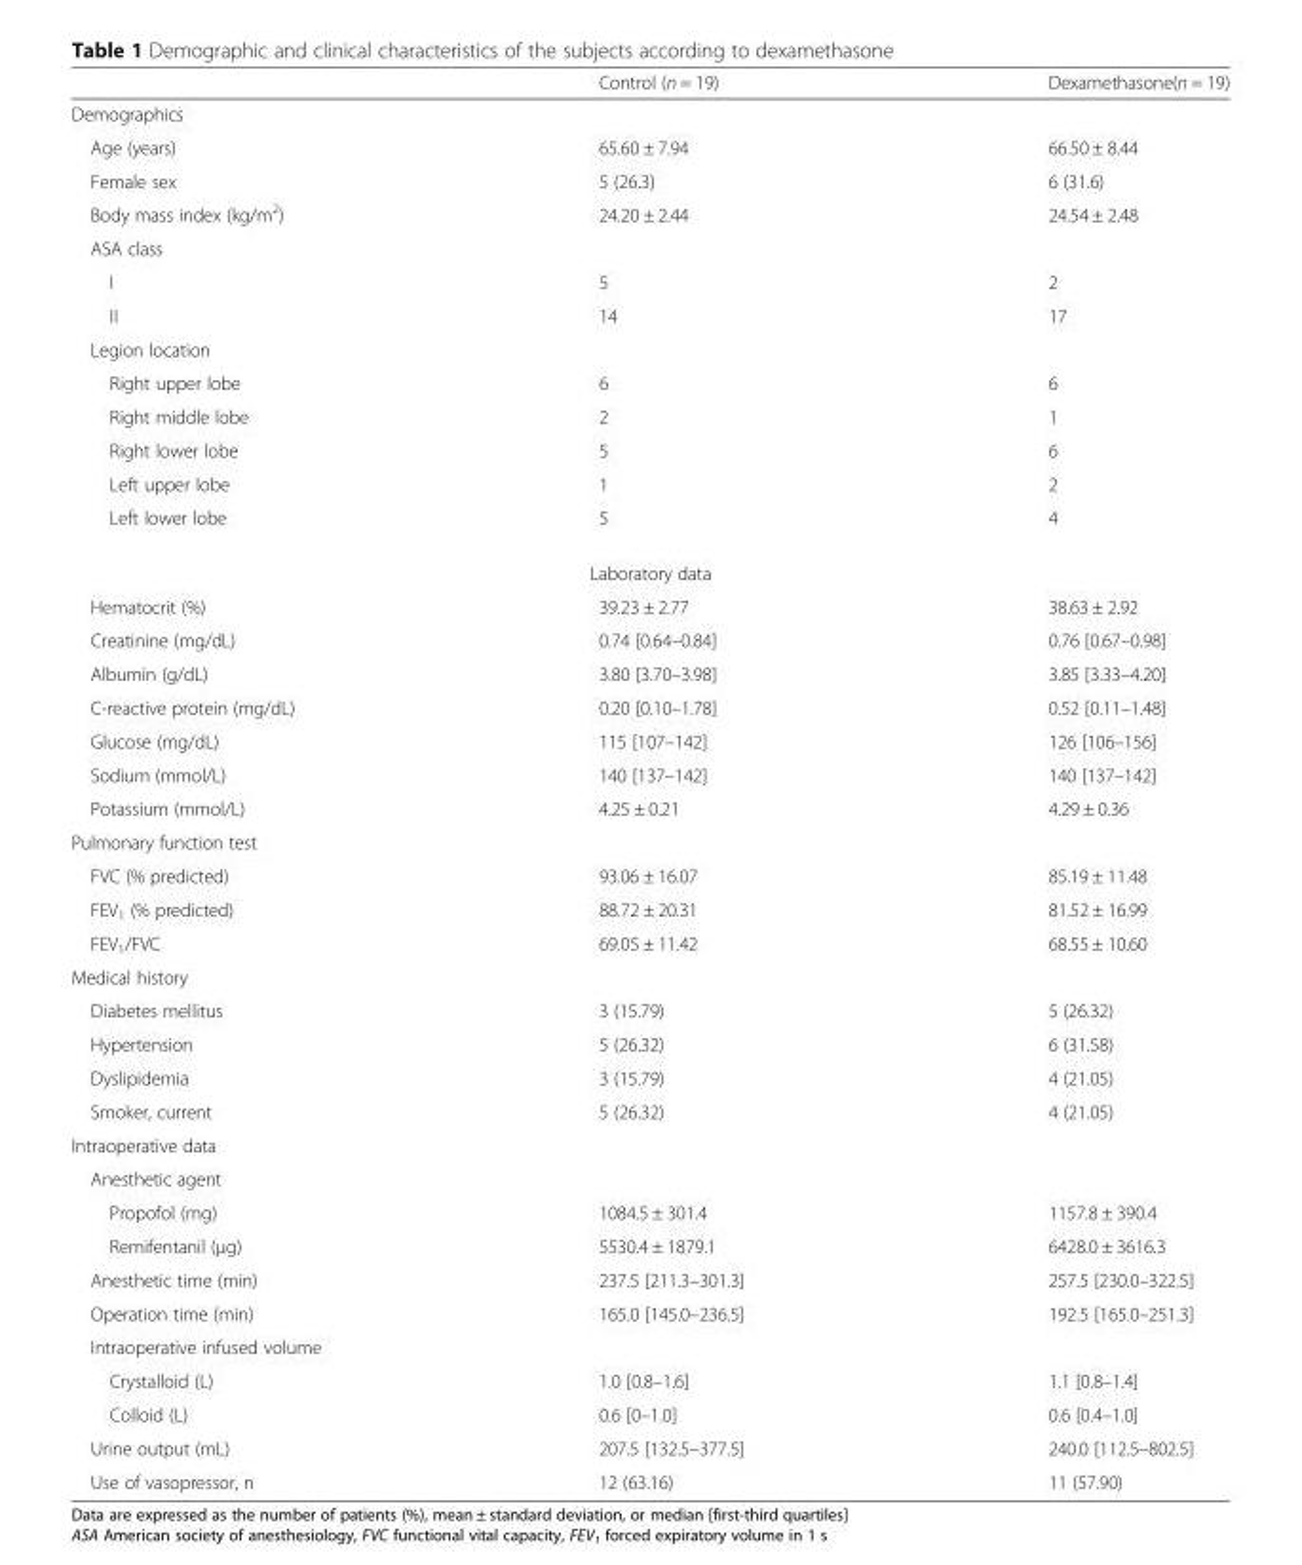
<table><thead><tr><td></td><td>Control (n = 19)</td><td>Dexamethasone(n = 19)</td></tr></thead><tbody><tr><td colspan="3">Demographics</td></tr><tr><td>Age (years)</td><td>65.60 ± 7.94</td><td>66.50 ± 8.44</td></tr><tr><td>Female sex</td><td>5 (26.3)</td><td>6 (31.6)</td></tr><tr><td>Body mass index (kg/m<sup>2</sup>)</td><td>24.20 ± 2.44</td><td>24.54 ± 2.48</td></tr><tr><td colspan="3">ASA class</td></tr><tr><td>I</td><td>5</td><td>2</td></tr><tr><td>II</td><td>14</td><td>17</td></tr><tr><td colspan="3">Legion location</td></tr><tr><td>Right upper lobe</td><td>6</td><td>6</td></tr><tr><td>Right middle lobe</td><td>2</td><td>1</td></tr><tr><td>Right lower lobe</td><td>5</td><td>6</td></tr><tr><td>Left upper lobe</td><td>1</td><td>2</td></tr><tr><td>Left lower lobe</td><td>5</td><td>4</td></tr><tr><td colspan="3">Laboratory data</td></tr><tr><td>Hematocrit (%)</td><td>39.23 ± 2.77</td><td>38.63 ± 2.92</td></tr><tr><td>Creatinine (mg/dL)</td><td>0.74 [0.64–0.84]</td><td>0.76 [0.67–0.98]</td></tr><tr><td>Albumin (g/dL)</td><td>3.80 [3.70–3.98]</td><td>3.85 [3.33–4.20]</td></tr><tr><td>C-reactive protein (mg/dL)</td><td>0.20 [0.10–1.78]</td><td>0.52 [0.11–1.48]</td></tr><tr><td>Glucose (mg/dL)</td><td>115 [107–142]</td><td>126 [106–156]</td></tr><tr><td>Sodium (mmol/L)</td><td>140 [137–142]</td><td>140 [137–142]</td></tr><tr><td>Potassium (mmol/L)</td><td>4.25 ± 0.21</td><td>4.29 ± 0.36</td></tr><tr><td colspan="3">Pulmonary function test</td></tr><tr><td>FVC (% predicted)</td><td>93.06 ± 16.07</td><td>85.19 ± 11.48</td></tr><tr><td>FEV<sub>1</sub> (% predicted)</td><td>88.72 ± 20.31</td><td>81.52 ± 16.99</td></tr><tr><td>FEV<sub>1</sub>/FVC</td><td>69.05 ± 11.42</td><td>68.55 ± 10.60</td></tr><tr><td colspan="3">Medical history</td></tr><tr><td>Diabetes mellitus</td><td>3 (15.79)</td><td>5 (26.32)</td></tr><tr><td>Hypertension</td><td>5 (26.32)</td><td>6 (31.58)</td></tr><tr><td>Dyslipidemia</td><td>3 (15.79)</td><td>4 (21.05)</td></tr><tr><td>Smoker, current</td><td>5 (26.32)</td><td>4 (21.05)</td></tr><tr><td colspan="3">Intraoperative data</td></tr><tr><td colspan="3">Anesthetic agent</td></tr><tr><td>Propofol (mg)</td><td>1084.5 ± 301.4</td><td>1157.8 ± 390.4</td></tr><tr><td>Remifentanil (μg)</td><td>5530.4 ± 1879.1</td><td>6428.0 ± 3616.3</td></tr><tr><td>Anesthetic time (min)</td><td>237.5 [211.3–301.3]</td><td>257.5 [230.0–322.5]</td></tr><tr><td>Operation time (min)</td><td>165.0 [145.0–236.5]</td><td>192.5 [165.0–251.3]</td></tr><tr><td colspan="3">Intraoperative infused volume</td></tr><tr><td>Crystalloid (L)</td><td>1.0 [0.8–1.6]</td><td>1.1 [0.8–1.4]</td></tr><tr><td>Colloid (L)</td><td>0.6 [0–1.0]</td><td>0.6 [0.4–1.0]</td></tr><tr><td>Urine output (mL)</td><td>207.5 [132.5–377.5]</td><td>240.0 [112.5–802.5]</td></tr><tr><td>Use of vasopressor, n</td><td>12 (63.16)</td><td>11 (57.90)</td></tr></tbody></table>